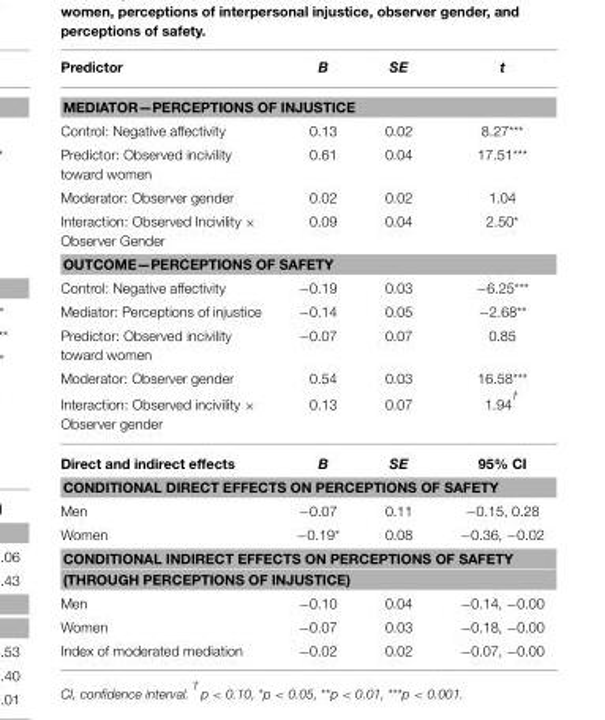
<table><thead><tr><td>Predictor</td><td>B</td><td>SE</td><td>t</td></tr></thead><tbody><tr><td colspan="4">MEDIATOR—PERCEPTIONS OF INJUSTICE</td></tr><tr><td>Control: Negative affectivity</td><td>0.13</td><td>0.02</td><td>8.27***</td></tr><tr><td>Predictor: Observed incivility toward women</td><td>0.61</td><td>0.04</td><td>17.51***</td></tr><tr><td>Moderator: Observer gender</td><td>0.02</td><td>0.02</td><td>1.04</td></tr><tr><td>Interaction: Observed Incivility × Observer Gender</td><td>0.09</td><td>0.04</td><td>2.50*</td></tr><tr><td colspan="4">OUTCOME—PERCEPTIONS OF SAFETY</td></tr><tr><td>Control: Negative affectivity</td><td>−0.19</td><td>0.03</td><td>−6.25***</td></tr><tr><td>Mediator: Perceptions of injustice</td><td>−0.14</td><td>0.05</td><td>−2.68**</td></tr><tr><td>Predictor: Observed incivility toward women</td><td>−0.07</td><td>0.07</td><td>0.85</td></tr><tr><td>Moderator: Observer gender</td><td>0.54</td><td>0.03</td><td>16.58***</td></tr><tr><td>Interaction: Observed incivility × Observer gender</td><td>0.13</td><td>0.07</td><td>1.94 <sup>†</sup></td></tr><tr><td>Direct and indirect effects</td><td>B</td><td>SE</td><td>95% CI</td></tr><tr><td colspan="4">CONDITIONAL DIRECT EFFECTS ON PERCEPTIONS OF SAFETY</td></tr><tr><td>Men</td><td>−0.07</td><td>0.11</td><td>−0.15, 0.28</td></tr><tr><td>Women</td><td>−0.19*</td><td>0.08</td><td>−0.36, −0.02</td></tr><tr><td colspan="4">CONDITIONAL INDIRECT EFFECTS ON PERCEPTIONS OF SAFETY</td></tr><tr><td colspan="4">(THROUGH PERCEPTIONS OF INJUSTICE)</td></tr><tr><td>Men</td><td>−0.10</td><td>0.04</td><td>−0.14, −0.00</td></tr><tr><td>Women</td><td>−0.07</td><td>0.03</td><td>−0.18, −0.00</td></tr><tr><td>Index of moderated mediation</td><td>−0.02</td><td>0.02</td><td>−0.07, −0.00</td></tr></tbody></table>